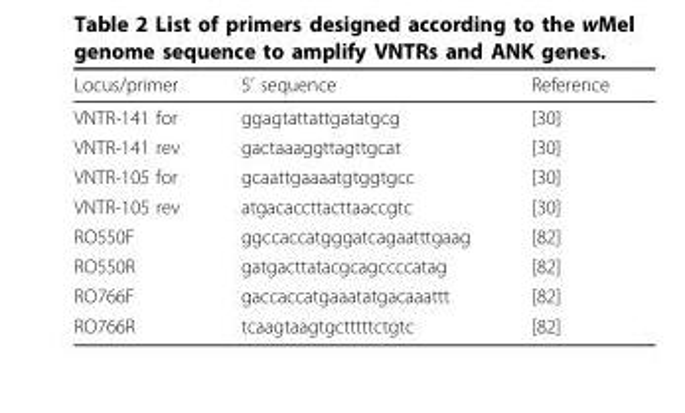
<table><thead><tr><td>Locus/primer</td><td>5’ sequence</td><td>Reference</td></tr></thead><tbody><tr><td>VNTR-141 for</td><td>ggagtattattgatatgcg</td><td>[30]</td></tr><tr><td>VNTR-141 rev</td><td>gactaaaggttagttgcat</td><td>[30]</td></tr><tr><td>VNTR-105 for</td><td>gcaattgaaaatgtggtgcc</td><td>[30]</td></tr><tr><td>VNTR-105 rev</td><td>atgacaccttacttaaccgtc</td><td>[30]</td></tr><tr><td>RO550F</td><td>ggccaccatgggatcagaatttgaag</td><td>[82]</td></tr><tr><td>RO550R</td><td>gatgacttatacgcagccccatag</td><td>[82]</td></tr><tr><td>RO766F</td><td>gaccaccatgaaatatgacaaattt</td><td>[82]</td></tr><tr><td>RO766R</td><td>tcaagtaagtgctttttctgtc</td><td>[82]</td></tr></tbody></table>